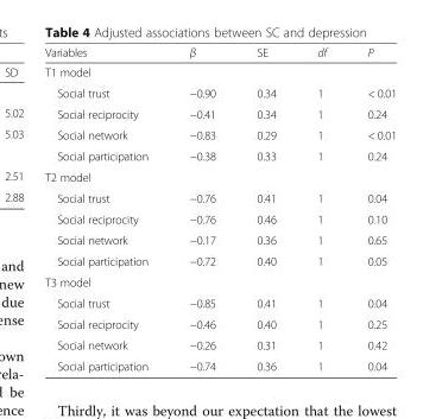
<table><thead><tr><td>Variables</td><td>β</td><td>SE</td><td>df</td><td>P</td></tr></thead><tbody><tr><td colspan="5">T1 model</td></tr><tr><td>Social trust</td><td>−0.90</td><td>0.34</td><td>1</td><td>&lt; 0.01</td></tr><tr><td>Social reciprocity</td><td>−0.41</td><td>0.34</td><td>1</td><td>0.24</td></tr><tr><td>Social network</td><td>−0.83</td><td>0.29</td><td>1</td><td>&lt; 0.01</td></tr><tr><td>Social participation</td><td>−0.38</td><td>0.33</td><td>1</td><td>0.24</td></tr><tr><td colspan="5">T2 model</td></tr><tr><td>Social trust</td><td>−0.76</td><td>0.41</td><td>1</td><td>0.04</td></tr><tr><td>Social reciprocity</td><td>−0.76</td><td>0.46</td><td>1</td><td>0.10</td></tr><tr><td>Social network</td><td>−0.17</td><td>0.36</td><td>1</td><td>0.65</td></tr><tr><td>Social participation</td><td>−0.72</td><td>0.40</td><td>1</td><td>0.05</td></tr><tr><td colspan="5">T3 model</td></tr><tr><td>Social trust</td><td>−0.85</td><td>0.41</td><td>1</td><td>0.04</td></tr><tr><td>Social reciprocity</td><td>−0.46</td><td>0.40</td><td>1</td><td>0.25</td></tr><tr><td>Social network</td><td>−0.26</td><td>0.31</td><td>1</td><td>0.42</td></tr><tr><td>Social participation</td><td>−0.74</td><td>0.36</td><td>1</td><td>0.04</td></tr></tbody></table>